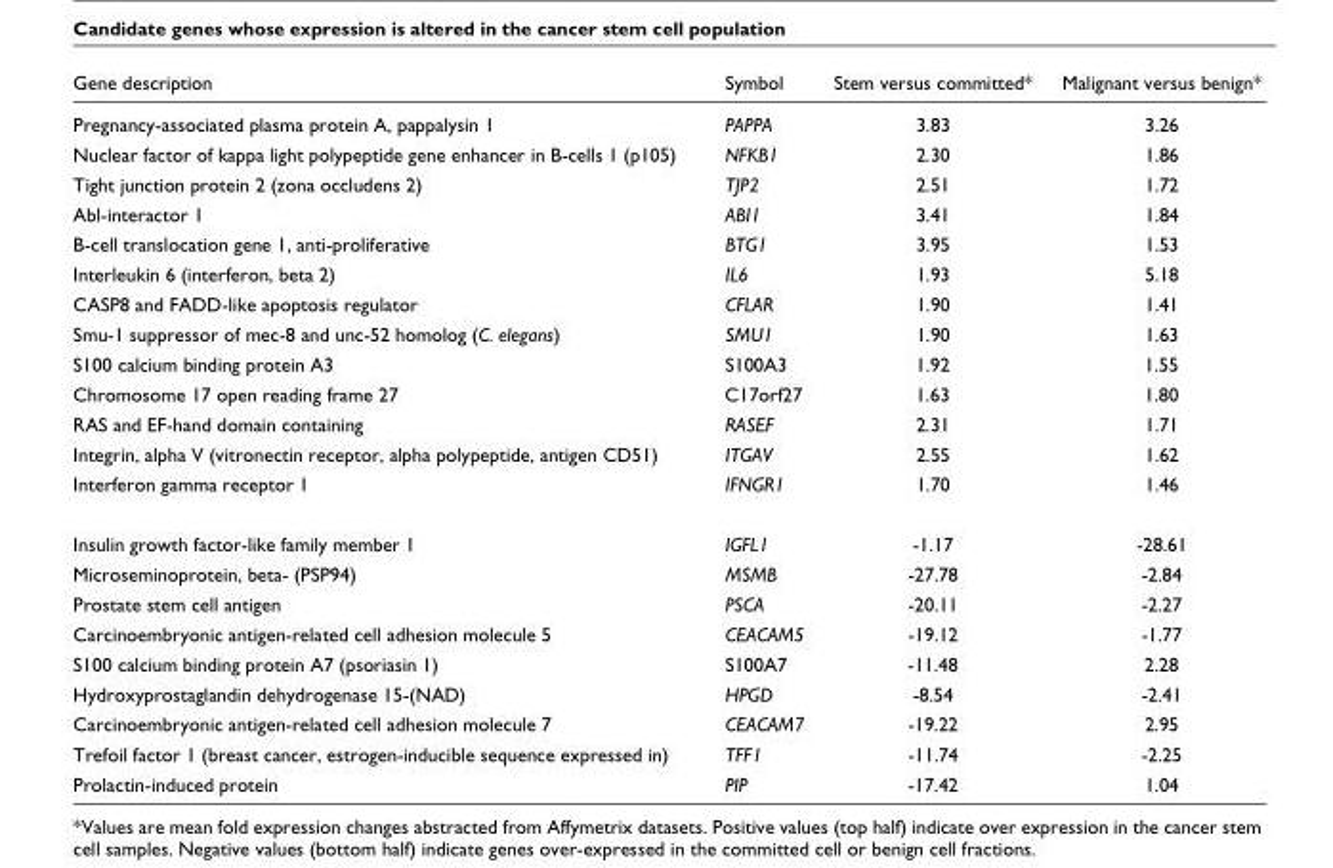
<table><thead><tr><td>Gene description</td><td>Symbol</td><td>Stem versus committed*</td><td>Malignant versus benign*</td></tr></thead><tbody><tr><td>Pregnancy-associated plasma protein A, pappalysin 1</td><td>PAPPA</td><td>3.83</td><td>3.26</td></tr><tr><td>Nuclear factor of kappa light polypeptide gene enhancer in B-cells 1 (p105)</td><td>NFKB1</td><td>2.30</td><td>1.86</td></tr><tr><td>Tight junction protein 2 (zona occludens 2)</td><td>TJP2</td><td>2.51</td><td>1.72</td></tr><tr><td>Abl-interactor 1</td><td>ABI1</td><td>3.41</td><td>1.84</td></tr><tr><td>B-cell translocation gene 1, anti-proliferative</td><td>BTG1</td><td>3.95</td><td>1.53</td></tr><tr><td>Interleukin 6 (interferon, beta 2)</td><td>IL6</td><td>1.93</td><td>5.18</td></tr><tr><td>CASP8 and FADD-like apoptosis regulator</td><td>CFLAR</td><td>1.90</td><td>1.41</td></tr><tr><td>Smu-1 suppressor of mec-8 and unc-52 homolog (C. elegans)</td><td>SMU1</td><td>1.90</td><td>1.63</td></tr><tr><td>S100 calcium binding protein A3</td><td>S100A3</td><td>1.92</td><td>1.55</td></tr><tr><td>Chromosome 17 open reading frame 27</td><td>C17orf27</td><td>1.63</td><td>1.80</td></tr><tr><td>RAS and EF-hand domain containing</td><td>RASEF</td><td>2.31</td><td>1.71</td></tr><tr><td>Integrin, alpha V (vitronectin receptor, alpha polypeptide, antigen CD51)</td><td>ITGAV</td><td>2.55</td><td>1.62</td></tr><tr><td>Interferon gamma receptor 1</td><td>IFNGR1</td><td>1.70</td><td>1.46</td></tr><tr><td>Insulin growth factor-like family member 1</td><td>IGFL1</td><td>-1.17</td><td>-28.61</td></tr><tr><td>Microseminoprotein, beta- (PSP94)</td><td>MSMB</td><td>-27.78</td><td>-2.84</td></tr><tr><td>Prostate stem cell antigen</td><td>PSCA</td><td>-20.11</td><td>-2.27</td></tr><tr><td>Carcinoembryonic antigen-related cell adhesion molecule 5</td><td>CEACAM5</td><td>-19.12</td><td>-1.77</td></tr><tr><td>S100 calcium binding protein A7 (psoriasin 1)</td><td>S100A7</td><td>-11.48</td><td>2.28</td></tr><tr><td>Hydroxyprostaglandin dehydrogenase 15-(NAD)</td><td>HPGD</td><td>-8.54</td><td>-2.41</td></tr><tr><td>Carcinoembryonic antigen-related cell adhesion molecule 7</td><td>CEACAM7</td><td>-19.22</td><td>2.95</td></tr><tr><td>Trefoil factor 1 (breast cancer, estrogen-inducible sequence expressed in)</td><td>TFF1</td><td>-11.74</td><td>-2.25</td></tr><tr><td>Prolactin-induced protein</td><td>PIP</td><td>-17.42</td><td>1.04</td></tr></tbody></table>